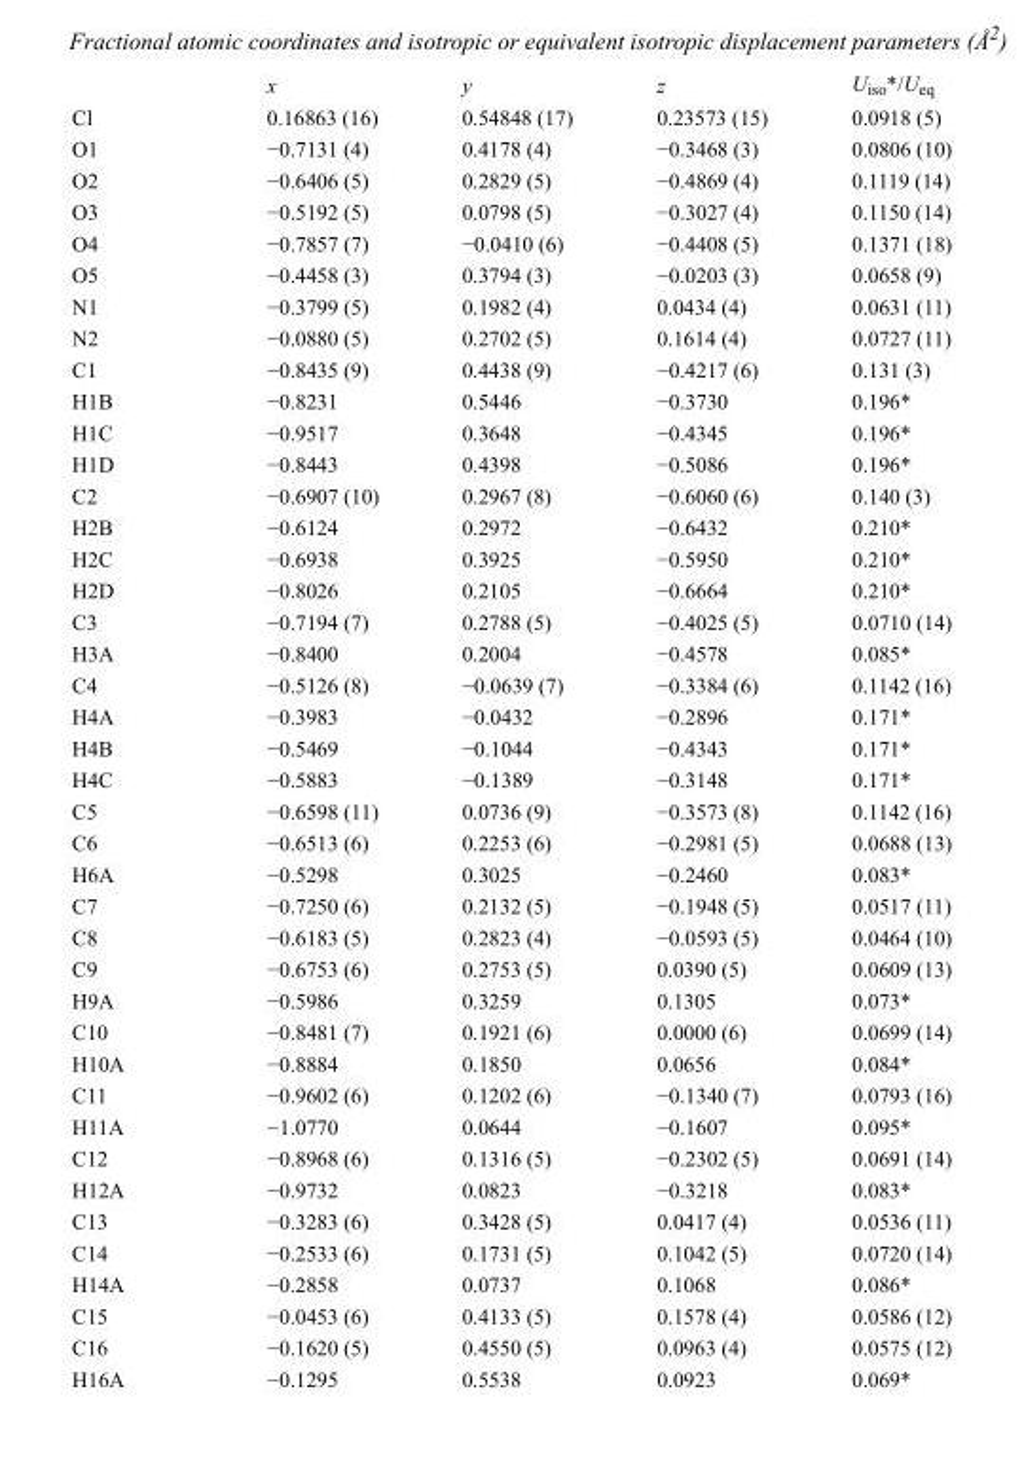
<table><thead><tr><td></td><td>x</td><td>y</td><td>z</td><td>U<sub>iso</sub>*/U<sub>eq</sub></td></tr></thead><tbody><tr><td>Cl</td><td>0.16863 (16)</td><td>0.54848 (17)</td><td>0.23573 (15)</td><td>0.0918 (5)</td></tr><tr><td>O1</td><td>−0.7131 (4)</td><td>0.4178 (4)</td><td>−0.3468 (3)</td><td>0.0806 (10)</td></tr><tr><td>O2</td><td>−0.6406 (5)</td><td>0.2829 (5)</td><td>−0.4869 (4)</td><td>0.1119 (14)</td></tr><tr><td>O3</td><td>−0.5192 (5)</td><td>0.0798 (5)</td><td>−0.3027 (4)</td><td>0.1150 (14)</td></tr><tr><td>O4</td><td>−0.7857 (7)</td><td>−0.0410 (6)</td><td>−0.4408 (5)</td><td>0.1371 (18)</td></tr><tr><td>O5</td><td>−0.4458 (3)</td><td>0.3794 (3)</td><td>−0.0203 (3)</td><td>0.0658 (9)</td></tr><tr><td>N1</td><td>−0.3799 (5)</td><td>0.1982 (4)</td><td>0.0434 (4)</td><td>0.0631 (11)</td></tr><tr><td>N2</td><td>−0.0880 (5)</td><td>0.2702 (5)</td><td>0.1614 (4)</td><td>0.0727 (11)</td></tr><tr><td>C1</td><td>−0.8435 (9)</td><td>0.4438 (9)</td><td>−0.4217 (6)</td><td>0.131 (3)</td></tr><tr><td>H1B</td><td>−0.8231</td><td>0.5446</td><td>−0.3730</td><td>0.196*</td></tr><tr><td>H1C</td><td>−0.9517</td><td>0.3648</td><td>−0.4345</td><td>0.196*</td></tr><tr><td>H1D</td><td>−0.8443</td><td>0.4398</td><td>−0.5086</td><td>0.196*</td></tr><tr><td>C2</td><td>−0.6907 (10)</td><td>0.2967 (8)</td><td>−0.6060 (6)</td><td>0.140 (3)</td></tr><tr><td>H2B</td><td>−0.6124</td><td>0.2972</td><td>−0.6432</td><td>0.210*</td></tr><tr><td>H2C</td><td>−0.6938</td><td>0.3925</td><td>−0.5950</td><td>0.210*</td></tr><tr><td>H2D</td><td>−0.8026</td><td>0.2105</td><td>−0.6664</td><td>0.210*</td></tr><tr><td>C3</td><td>−0.7194 (7)</td><td>0.2788 (5)</td><td>−0.4025 (5)</td><td>0.0710 (14)</td></tr><tr><td>H3A</td><td>−0.8400</td><td>0.2004</td><td>−0.4578</td><td>0.085*</td></tr><tr><td>C4</td><td>−0.5126 (8)</td><td>−0.0639 (7)</td><td>−0.3384 (6)</td><td>0.1142 (16)</td></tr><tr><td>H4A</td><td>−0.3983</td><td>−0.0432</td><td>−0.2896</td><td>0.171*</td></tr><tr><td>H4B</td><td>−0.5469</td><td>−0.1044</td><td>−0.4343</td><td>0.171*</td></tr><tr><td>H4C</td><td>−0.5883</td><td>−0.1389</td><td>−0.3148</td><td>0.171*</td></tr><tr><td>C5</td><td>−0.6598 (11)</td><td>0.0736 (9)</td><td>−0.3573 (8)</td><td>0.1142 (16)</td></tr><tr><td>C6</td><td>−0.6513 (6)</td><td>0.2253 (6)</td><td>−0.2981 (5)</td><td>0.0688 (13)</td></tr><tr><td>H6A</td><td>−0.5298</td><td>0.3025</td><td>−0.2460</td><td>0.083*</td></tr><tr><td>C7</td><td>−0.7250 (6)</td><td>0.2132 (5)</td><td>−0.1948 (5)</td><td>0.0517 (11)</td></tr><tr><td>C8</td><td>−0.6183 (5)</td><td>0.2823 (4)</td><td>−0.0593 (5)</td><td>0.0464 (10)</td></tr><tr><td>C9</td><td>−0.6753 (6)</td><td>0.2753 (5)</td><td>0.0390 (5)</td><td>0.0609 (13)</td></tr><tr><td>H9A</td><td>−0.5986</td><td>0.3259</td><td>0.1305</td><td>0.073*</td></tr><tr><td>C10</td><td>−0.8481 (7)</td><td>0.1921 (6)</td><td>0.0000 (6)</td><td>0.0699 (14)</td></tr><tr><td>H10A</td><td>−0.8884</td><td>0.1850</td><td>0.0656</td><td>0.084*</td></tr><tr><td>C11</td><td>−0.9602 (6)</td><td>0.1202 (6)</td><td>−0.1340 (7)</td><td>0.0793 (16)</td></tr><tr><td>H11A</td><td>−1.0770</td><td>0.0644</td><td>−0.1607</td><td>0.095*</td></tr><tr><td>C12</td><td>−0.8968 (6)</td><td>0.1316 (5)</td><td>−0.2302 (5)</td><td>0.0691 (14)</td></tr><tr><td>H12A</td><td>−0.9732</td><td>0.0823</td><td>−0.3218</td><td>0.083*</td></tr><tr><td>C13</td><td>−0.3283 (6)</td><td>0.3428 (5)</td><td>0.0417 (4)</td><td>0.0536 (11)</td></tr><tr><td>C14</td><td>−0.2533 (6)</td><td>0.1731 (5)</td><td>0.1042 (5)</td><td>0.0720 (14)</td></tr><tr><td>H14A</td><td>−0.2858</td><td>0.0737</td><td>0.1068</td><td>0.086*</td></tr><tr><td>C15</td><td>−0.0453 (6)</td><td>0.4133 (5)</td><td>0.1578 (4)</td><td>0.0586 (12)</td></tr><tr><td>C16</td><td>−0.1620 (5)</td><td>0.4550 (5)</td><td>0.0963 (4)</td><td>0.0575 (12)</td></tr><tr><td>H16A</td><td>−0.1295</td><td>0.5538</td><td>0.0923</td><td>0.069*</td></tr></tbody></table>